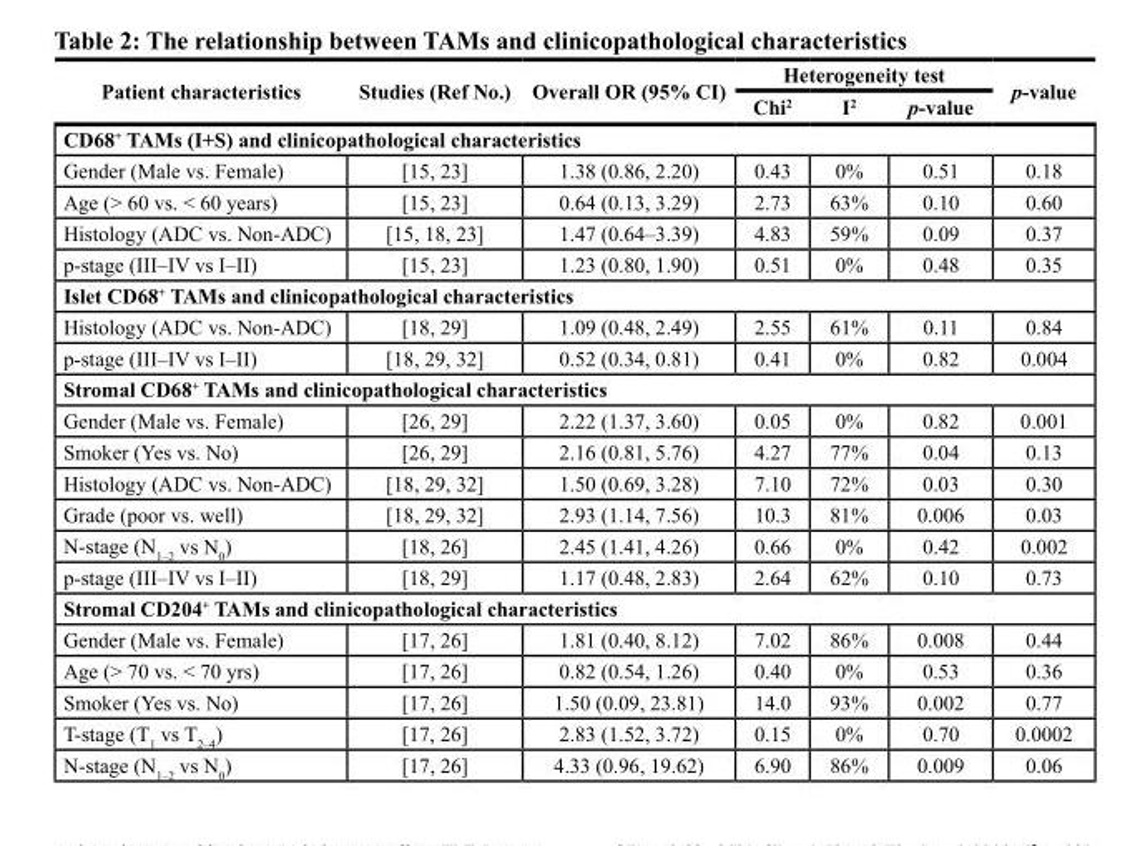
<table><thead><tr><td rowspan="2">Patient characteristics</td><td rowspan="2">studies (ref no.)</td><td rowspan="2">overall or (95% cI)</td><td colspan="3">Heterogeneity test</td><td rowspan="2">p-value</td></tr><tr><td>chi<sup>2</sup></td><td>I<sup>2</sup></td><td>p-value</td></tr></thead><tbody><tr><td colspan="7">cd68<sup>+</sup> tAMs (I+s) and clinicopathological characteristics</td></tr><tr><td>Gender (Male vs. Female)</td><td>[15, 23]</td><td>1.38 (0.86, 2.20)</td><td>0.43</td><td>0%</td><td>0.51</td><td>0.18</td></tr><tr><td>Age (&gt; 60 vs. &lt; 60 years)</td><td>[15, 23]</td><td>0.64 (0.13, 3.29)</td><td>2.73</td><td>63%</td><td>0.10</td><td>0.60</td></tr><tr><td>Histology (ADC vs. Non-ADC)</td><td>[15, 18, 23]</td><td>1.47 (0.64–3.39)</td><td>4.83</td><td>59%</td><td>0.09</td><td>0.37</td></tr><tr><td>p-stage (III–IV vs I–II)</td><td>[15, 23]</td><td>1.23 (0.80, 1.90)</td><td>0.51</td><td>0%</td><td>0.48</td><td>0.35</td></tr><tr><td colspan="7">Islet cd68<sup>+</sup> tAMs and clinicopathological characteristics</td></tr><tr><td>Histology (ADC vs. Non-ADC)</td><td>[18, 29]</td><td>1.09 (0.48, 2.49)</td><td>2.55</td><td>61%</td><td>0.11</td><td>0.84</td></tr><tr><td>p-stage (III–IV vs I–II)</td><td>[18, 29, 32]</td><td>0.52 (0.34, 0.81)</td><td>0.41</td><td>0%</td><td>0.82</td><td>0.004</td></tr><tr><td colspan="7">stromal cd68<sup>+</sup> tAMs and clinicopathological characteristics</td></tr><tr><td>Gender (Male vs. Female)</td><td>[26, 29]</td><td>2.22 (1.37, 3.60)</td><td>0.05</td><td>0%</td><td>0.82</td><td>0.001</td></tr><tr><td>Smoker (Yes vs. No)</td><td>[26, 29]</td><td>2.16 (0.81, 5.76)</td><td>4.27</td><td>77%</td><td>0.04</td><td>0.13</td></tr><tr><td>Histology (ADC vs. Non-ADC)</td><td>[18, 29, 32]</td><td>1.50 (0.69, 3.28)</td><td>7.10</td><td>72%</td><td>0.03</td><td>0.30</td></tr><tr><td>Grade (poor vs. well)</td><td>[18, 29, 32]</td><td>2.93 (1.14, 7.56)</td><td>10.3</td><td>81%</td><td>0.006</td><td>0.03</td></tr><tr><td>N-stage (N<sub>1–2</sub> vs N<sub>0</sub>)</td><td>[18, 26]</td><td>2.45 (1.41, 4.26)</td><td>0.66</td><td>0%</td><td>0.42</td><td>0.002</td></tr><tr><td>p-stage (III–IV vs I–II)</td><td>[18, 29]</td><td>1.17 (0.48, 2.83)</td><td>2.64</td><td>62%</td><td>0.10</td><td>0.73</td></tr><tr><td colspan="7">stromal cd204<sup>+</sup> tAMs and clinicopathological characteristics</td></tr><tr><td>Gender (Male vs. Female)</td><td>[17, 26]</td><td>1.81 (0.40, 8.12)</td><td>7.02</td><td>86%</td><td>0.008</td><td>0.44</td></tr><tr><td>Age (&gt; 70 vs. &lt; 70 yrs)</td><td>[17, 26]</td><td>0.82 (0.54, 1.26)</td><td>0.40</td><td>0%</td><td>0.53</td><td>0.36</td></tr><tr><td>Smoker (Yes vs. No)</td><td>[17, 26]</td><td>1.50 (0.09, 23.81)</td><td>14.0</td><td>93%</td><td>0.002</td><td>0.77</td></tr><tr><td>T-stage (T<sub>1</sub> vs T<sub>2–4</sub>)</td><td>[17, 26]</td><td>2.83 (1.52, 3.72)</td><td>0.15</td><td>0%</td><td>0.70</td><td>0.0002</td></tr><tr><td>N-stage (N<sub>1–2</sub> vs N<sub>0</sub>)</td><td>[17, 26]</td><td>4.33 (0.96, 19.62)</td><td>6.90</td><td>86%</td><td>0.009</td><td>0.06</td></tr></tbody></table>